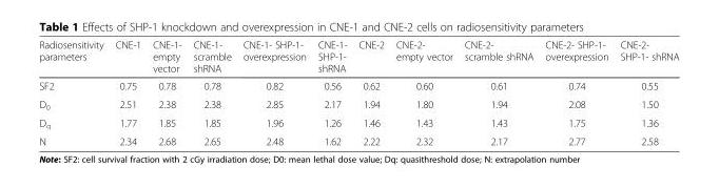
<table><thead><tr><td>Radiosensitivity parameters</td><td>CNE-1</td><td>CNE-1- empty vector</td><td>CNE-1- scramble shRNA</td><td>CNE-1- SHP-1- overexpression</td><td>CNE-1- SHP-1- shRNA</td><td>CNE-2</td><td>CNE-2- empty vector</td><td>CNE-2- scramble shRNA</td><td>CNE-2- SHP-1- overexpression</td><td>CNE-2- SHP-1- shRNA</td></tr></thead><tbody><tr><td>SF2</td><td>0.75</td><td>0.78</td><td>0.78</td><td>0.82</td><td>0.56</td><td>0.62</td><td>0.60</td><td>0.61</td><td>0.74</td><td>0.55</td></tr><tr><td>D<sub>0</sub></td><td>2.51</td><td>2.38</td><td>2.38</td><td>2.85</td><td>2.17</td><td>1.94</td><td>1.80</td><td>1.94</td><td>2.08</td><td>1.50</td></tr><tr><td>D<sub>q</sub></td><td>1.77</td><td>1.85</td><td>1.85</td><td>1.96</td><td>1.26</td><td>1.46</td><td>1.43</td><td>1.43</td><td>1.75</td><td>1.36</td></tr><tr><td>N</td><td>2.34</td><td>2.68</td><td>2.65</td><td>2.48</td><td>1.62</td><td>2.22</td><td>2.32</td><td>2.17</td><td>2.77</td><td>2.58</td></tr></tbody></table>